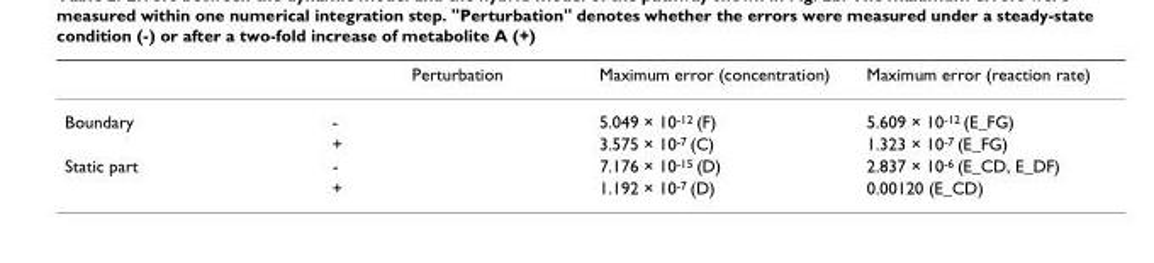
<table><thead><tr><td></td><td>Perturbation</td><td>Maximum error (concentration)</td><td>Maximum error (reaction rate)</td></tr></thead><tbody><tr><td rowspan="2">Boundary</td><td>-</td><td>5.049 × 10<sup>-12</sup> (F)</td><td>5.609 × 10<sup>-12</sup> (E_FG)</td></tr><tr><td>+</td><td>3.575 × 10<sup>-7</sup> (C)</td><td>1.323 × 10<sup>-7</sup> (E_FG)</td></tr><tr><td rowspan="2">Static part</td><td>-</td><td>7.176 × 10<sup>-15</sup> (D)</td><td>2.837 × 10<sup>-6</sup> (E_CD, E_DF)</td></tr><tr><td>+</td><td>1.192 × 10<sup>-7</sup> (D)</td><td>0.00120 (E_CD)</td></tr></tbody></table>